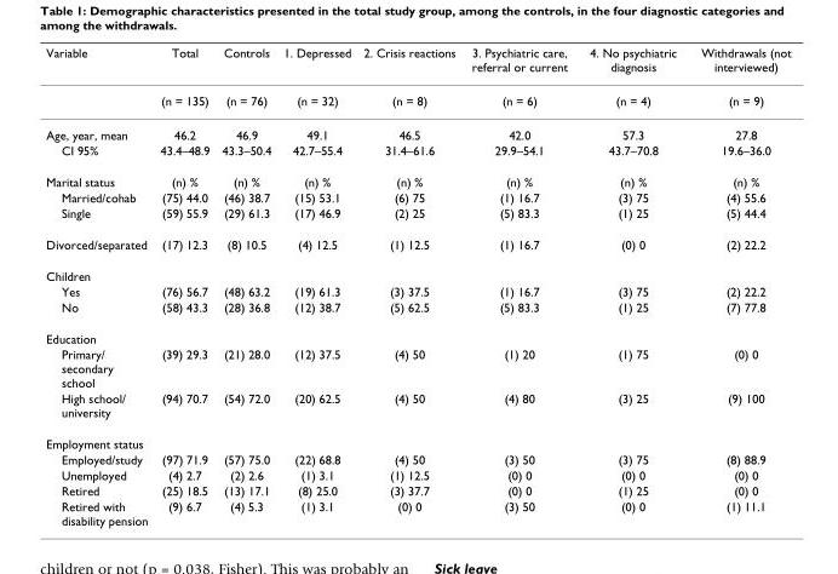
<table><thead><tr><td>Variable</td><td>Total</td><td>Controls</td><td>1. Depressed</td><td>2. Crisis reactions</td><td>3. Psychiatric care, referral or current</td><td>4. No psychiatric diagnosis</td><td>Withdrawals (not interviewed)</td></tr></thead><tbody><tr><td></td><td>(n = 135)</td><td>(n = 76)</td><td>(n = 32)</td><td>(n = 8)</td><td>(n = 6)</td><td>(n = 4)</td><td>(n = 9)</td></tr><tr><td>Age, year, mean</td><td>46.2</td><td>46.9</td><td>49.1</td><td>46.5</td><td>42.0</td><td>57.3</td><td>27.8</td></tr><tr><td>CI 95%</td><td>43.4–48.9</td><td>43.3–50.4</td><td>42.7–55.4</td><td>31.4–61.6</td><td>29.9–54.1</td><td>43.7–70.8</td><td>19.6–36.0</td></tr><tr><td>Marital status</td><td>(n) %</td><td>(n) %</td><td>(n) %</td><td>(n) %</td><td>(n) %</td><td>(n) %</td><td>(n) %</td></tr><tr><td>Married/cohab</td><td>(75) 44.0</td><td>(46) 38.7</td><td>(15) 53.1</td><td>(6) 75</td><td>(1) 16.7</td><td>(3) 75</td><td>(4) 55.6</td></tr><tr><td>Single</td><td>(59) 55.9</td><td>(29) 61.3</td><td>(17) 46.9</td><td>(2) 25</td><td>(5) 83.3</td><td>(1) 25</td><td>(5) 44.4</td></tr><tr><td>Divorced/separated</td><td>(17) 12.3</td><td>(8) 10.5</td><td>(4) 12.5</td><td>(1) 12.5</td><td>(1) 16.7</td><td>(0) 0</td><td>(2) 22.2</td></tr><tr><td colspan="8">Children</td></tr><tr><td>Yes</td><td>(76) 56.7</td><td>(48) 63.2</td><td>(19) 61.3</td><td>(3) 37.5</td><td>(1) 16.7</td><td>(3) 75</td><td>(2) 22.2</td></tr><tr><td>No</td><td>(58) 43.3</td><td>(28) 36.8</td><td>(12) 38.7</td><td>(5) 62.5</td><td>(5) 83.3</td><td>(1) 25</td><td>(7) 77.8</td></tr><tr><td colspan="8">Education</td></tr><tr><td>Primary/ secondary school</td><td>(39) 29.3</td><td>(21) 28.0</td><td>(12) 37.5</td><td>(4) 50</td><td>(1) 20</td><td>(1) 75</td><td>(0) 0</td></tr><tr><td>High school/ university</td><td>(94) 70.7</td><td>(54) 72.0</td><td>(20) 62.5</td><td>(4) 50</td><td>(4) 80</td><td>(3) 25</td><td>(9) 100</td></tr><tr><td colspan="8">Employment status</td></tr><tr><td>Employed/study</td><td>(97) 71.9</td><td>(57) 75.0</td><td>(22) 68.8</td><td>(4) 50</td><td>(3) 50</td><td>(3) 75</td><td>(8) 88.9</td></tr><tr><td>Unemployed</td><td>(4) 2.7</td><td>(2) 2.6</td><td>(1) 3.1</td><td>(1) 12.5</td><td>(0) 0</td><td>(0) 0</td><td>(0) 0</td></tr><tr><td>Retired</td><td>(25) 18.5</td><td>(13) 17.1</td><td>(8) 25.0</td><td>(3) 37.7</td><td>(0) 0</td><td>(1) 25</td><td>(0) 0</td></tr><tr><td>Retired with disability pension</td><td>(9) 6.7</td><td>(4) 5.3</td><td>(1) 3.1</td><td>(0) 0</td><td>(3) 50</td><td>(0) 0</td><td>(1) 11.1</td></tr></tbody></table>